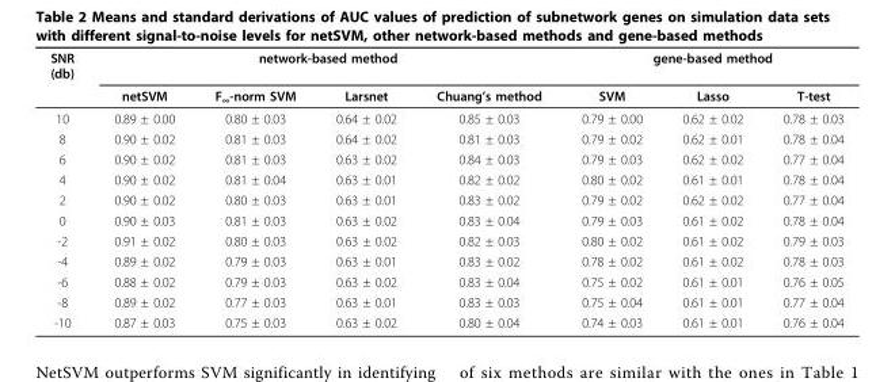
<table><thead><tr><td rowspan="2">SNR (db)</td><td colspan="4">network-based method</td><td colspan="3">gene-based method</td></tr><tr><td>netSVM</td><td>F<sub>∞</sub>-norm SVM</td><td>Larsnet</td><td>Chuang’s method</td><td>SVM</td><td>Lasso</td><td>T-test</td></tr></thead><tbody><tr><td>10</td><td>0.89 ± 0.00</td><td>0.80 ± 0.03</td><td>0.64 ± 0.02</td><td>0.85 ± 0.03</td><td>0.79 ± 0.00</td><td>0.62 ± 0.02</td><td>0.78 ± 0.03</td></tr><tr><td>8</td><td>0.90 ± 0.02</td><td>0.81 ± 0.03</td><td>0.64 ± 0.02</td><td>0.81 ± 0.03</td><td>0.79 ± 0.02</td><td>0.62 ± 0.01</td><td>0.78 ± 0.04</td></tr><tr><td>6</td><td>0.90 ± 0.02</td><td>0.81 ± 0.03</td><td>0.63 ± 0.02</td><td>0.84 ± 0.03</td><td>0.79 ± 0.03</td><td>0.62 ± 0.02</td><td>0.77 ± 0.04</td></tr><tr><td>4</td><td>0.90 ± 0.02</td><td>0.81 ± 0.04</td><td>0.63 ± 0.01</td><td>0.82 ± 0.02</td><td>0.80 ± 0.02</td><td>0.61 ± 0.01</td><td>0.78 ± 0.04</td></tr><tr><td>2</td><td>0.90 ± 0.02</td><td>0.80 ± 0.03</td><td>0.63 ± 0.01</td><td>0.83 ± 0.02</td><td>0.79 ± 0.02</td><td>0.62 ± 0.02</td><td>0.77 ± 0.04</td></tr><tr><td>0</td><td>0.90 ± 0.03</td><td>0.81 ± 0.03</td><td>0.63 ± 0.02</td><td>0.83 ± 0.04</td><td>0.79 ± 0.03</td><td>0.61 ± 0.02</td><td>0.78 ± 0.04</td></tr><tr><td>-2</td><td>0.91 ± 0.02</td><td>0.80 ± 0.03</td><td>0.63 ± 0.02</td><td>0.82 ± 0.03</td><td>0.80 ± 0.02</td><td>0.61 ± 0.02</td><td>0.79 ± 0.03</td></tr><tr><td>-4</td><td>0.89 ± 0.02</td><td>0.79 ± 0.03</td><td>0.63 ± 0.01</td><td>0.83 ± 0.02</td><td>0.78 ± 0.02</td><td>0.61 ± 0.02</td><td>0.78 ± 0.03</td></tr><tr><td>-6</td><td>0.88 ± 0.02</td><td>0.79 ± 0.03</td><td>0.63 ± 0.02</td><td>0.83 ± 0.04</td><td>0.75 ± 0.02</td><td>0.61 ± 0.01</td><td>0.76 ± 0.05</td></tr><tr><td>-8</td><td>0.89 ± 0.02</td><td>0.77 ± 0.03</td><td>0.63 ± 0.01</td><td>0.83 ± 0.03</td><td>0.75 ± 0.04</td><td>0.61 ± 0.01</td><td>0.77 ± 0.04</td></tr><tr><td>-10</td><td>0.87 ± 0.03</td><td>0.75 ± 0.03</td><td>0.63 ± 0.02</td><td>0.80 ± 0.04</td><td>0.74 ± 0.03</td><td>0.61 ± 0.01</td><td>0.76 ± 0.04</td></tr></tbody></table>